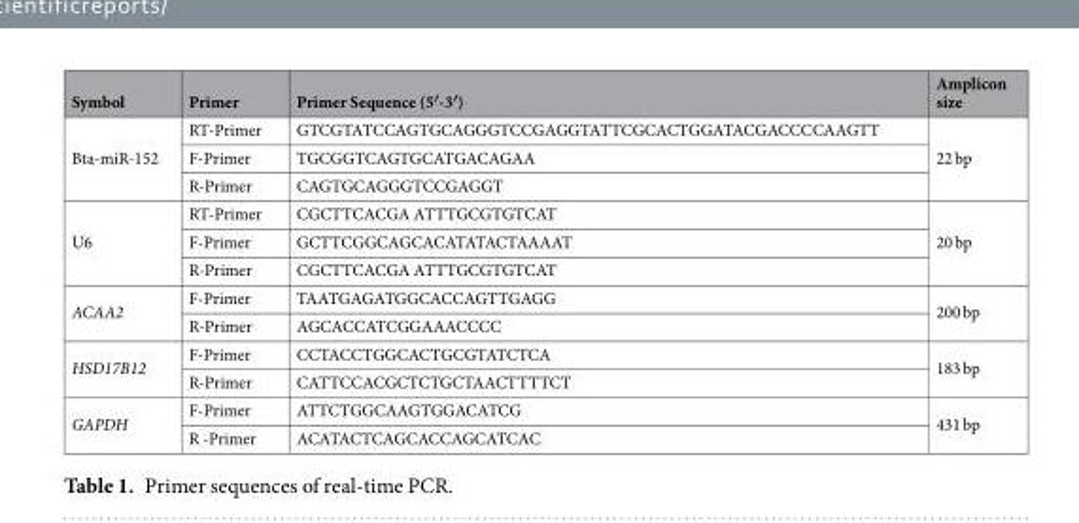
<table><thead><tr><td>Symbol</td><td>Primer</td><td>Primer Sequence (5′-3′)</td><td>Amplicon size</td></tr></thead><tbody><tr><td rowspan="3">Bta-miR-152</td><td>RT-Primer</td><td>GTCGTATCCAGTGCAGGGTCCGAGGTATTCGCACTGGATACGACCCCAAGTT</td><td rowspan="3">22 bp</td></tr><tr><td>F-Primer</td><td>TGCGGTCAGTGCATGACAGAA</td></tr><tr><td>R-Primer</td><td>CAGTGCAGGGTCCGAGGT</td></tr><tr><td rowspan="3">U6</td><td>RT-Primer</td><td>CGCTTCACGA ATTTGCGTGTCAT</td><td rowspan="3">20 bp</td></tr><tr><td>F-Primer</td><td>GCTTCGGCAGCACATATACTAAAAT</td></tr><tr><td>R-Primer</td><td>CGCTTCACGA ATTTGCGTGTCAT</td></tr><tr><td rowspan="2">ACAA2</td><td>F-Primer</td><td>TAATGAGATGGCACCAGTTGAGG</td><td rowspan="2">200 bp</td></tr><tr><td>R-Primer</td><td>AGCACCATCGGAAACCCC</td></tr><tr><td rowspan="2">HSD17B12</td><td>F-Primer</td><td>CCTACCTGGCACTGCGTATCTCA</td><td rowspan="2">183 bp</td></tr><tr><td>R-Primer</td><td>CATTCCACGCTCTGCTAACTTTTCT</td></tr><tr><td rowspan="2">GAPDH</td><td>F-Primer</td><td>ATTCTGGCAAGTGGACATCG</td><td rowspan="2">431 bp</td></tr><tr><td>R -Primer</td><td>ACATACTCAGCACCAGCATCAC</td></tr></tbody></table>